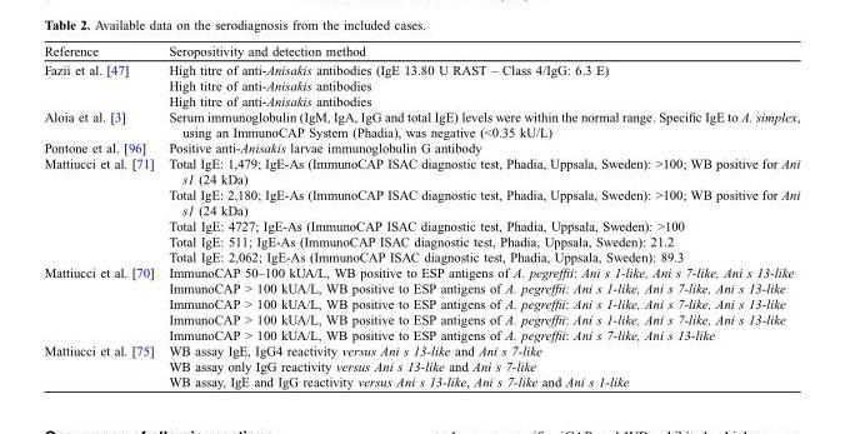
<table><thead><tr><td>Reference</td><td>Seropositivity and detection method</td></tr></thead><tbody><tr><td rowspan="3">Fazii et al. [47]</td><td>High titre of anti-Anisakis antibodies (IgE 13.80 U RAST – Class 4/IgG: 6.3 E)</td></tr><tr><td>High titre of anti-Anisakis antibodies</td></tr><tr><td>High titre of anti-Anisakis antibodies</td></tr><tr><td>Aloia et al. [3]</td><td>Serum immunoglobulin (IgM, IgA, IgG and total IgE) levels were within the normal range. Specific IgE to A. simplex, using an ImmunoCAP System (Phadia), was negative (&lt;0.35 kU/L)</td></tr><tr><td>Pontone et al. [96]</td><td>Positive anti-Anisakis larvae immunoglobulin G antibody</td></tr><tr><td rowspan="5">Mattiucci et al. [71]</td><td>Total IgE: 1,479; IgE-As (ImmunoCAP ISAC diagnostic test, Phadia, Uppsala, Sweden): &gt;100; WB positive for Ani s1 (24 kDa)</td></tr><tr><td>Total IgE: 2,180; IgE-As (ImmunoCAP ISAC diagnostic test, Phadia, Uppsala, Sweden): &gt;100; WB positive for Ani s1 (24 kDa)</td></tr><tr><td>Total IgE: 4727; IgE-As (ImmunoCAP ISAC diagnostic test, Phadia, Uppsala, Sweden): &gt;100</td></tr><tr><td>Total IgE: 511; IgE-As (ImmunoCAP ISAC diagnostic test, Phadia, Uppsala, Sweden): 21.2</td></tr><tr><td>Total IgE: 2,062; IgE-As (ImmunoCAP ISAC diagnostic test, Phadia, Uppsala, Sweden): 89.3</td></tr><tr><td rowspan="5">Mattiucci et al. [70]</td><td>ImmunoCAP 50–100 kUA/L, WB positive to ESP antigens of A. pegreffii: Ani s 1-like, Ani s 7-like, Ani s 13-like</td></tr><tr><td>ImmunoCAP &gt; 100 kUA/L, WB positive to ESP antigens of A. pegreffii: Ani s 1-like, Ani s 7-like, Ani s 13-like</td></tr><tr><td>ImmunoCAP &gt; 100 kUA/L, WB positive to ESP antigens of A. pegreffii: Ani s 1-like, Ani s 7-like, Ani s 13-like</td></tr><tr><td>ImmunoCAP &gt; 100 kUA/L, WB positive to ESP antigens of A. pegreffii: Ani s 1-like, Ani s 7-like, Ani s 13-like</td></tr><tr><td>ImmunoCAP &gt; 100 kUA/L, WB positive to ESP antigens of A. pegreffii: Ani s 7-like, Ani s 13-like</td></tr><tr><td rowspan="3">Mattiucci et al. [75]</td><td>WB assay IgE, IgG4 reactivity versus Ani s 13-like and Ani s 7-like</td></tr><tr><td>WB assay only IgG reactivity versus Ani s 13-like and Ani s 7-like</td></tr><tr><td>WB assay, IgE and IgG reactivity versus Ani s 13-like, Ani s 7-like and Ani s 1-like</td></tr></tbody></table>